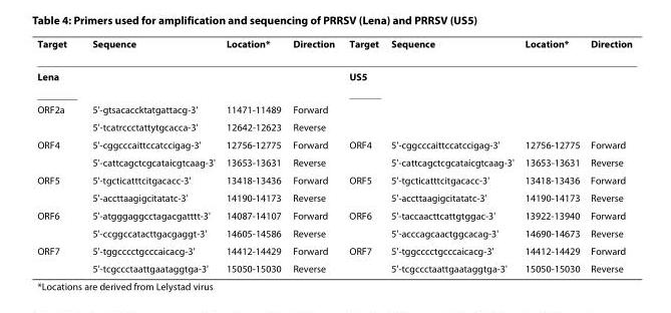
<table><thead><tr><td>Target</td><td>Sequence</td><td>Location*</td><td>Direction</td><td>Target</td><td>Sequence</td><td>Location*</td><td>Direction</td></tr></thead><tbody><tr><td>Lena</td><td></td><td></td><td></td><td>US5</td><td></td><td></td><td></td></tr><tr><td rowspan="2">ORF2a</td><td>5&#x27;-gtsacaccktatgattacg-3&#x27;</td><td>11471-11489</td><td>Forward</td><td></td><td></td><td></td><td></td></tr><tr><td>5&#x27;-tcatrccctattytgcacca-3&#x27;</td><td>12642-12623</td><td>Reverse</td><td></td><td></td><td></td><td></td></tr><tr><td rowspan="2">ORF4</td><td>5&#x27;-cggcccaittccatccigag-3&#x27;</td><td>12756-12775</td><td>Forward</td><td>ORF4</td><td>5&#x27;-cggcccaittccatccigag-3&#x27;</td><td>12756-12775</td><td>Forward</td></tr><tr><td>5&#x27;-cattcagctcgcataicgtcaag-3&#x27;</td><td>13653-13631</td><td>Reverse</td><td></td><td>5&#x27;-cattcagctcgcataicgtcaag-3&#x27;</td><td>13653-13631</td><td>Reverse</td></tr><tr><td rowspan="2">ORF5</td><td>5&#x27;-tgcticatttcitgacacc-3&#x27;</td><td>13418-13436</td><td>Forward</td><td>ORF5</td><td>5&#x27;-tgcticatttcitgacacc-3&#x27;</td><td>13418-13436</td><td>Forward</td></tr><tr><td>5&#x27;-accttaagigcitatatc-3&#x27;</td><td>14190-14173</td><td>Reverse</td><td></td><td>5&#x27;-accttaagigcitatatc-3&#x27;</td><td>14190-14173</td><td>Reverse</td></tr><tr><td rowspan="2">ORF6</td><td>5&#x27;-atgggaggcctagacgatttt-3&#x27;</td><td>14087-14107</td><td>Forward</td><td>ORF6</td><td>5&#x27;-taccaacttcattgtggac-3&#x27;</td><td>13922-13940</td><td>Forward</td></tr><tr><td>5&#x27;-ccggccatacttgacgaggt-3&#x27;</td><td>14605-14586</td><td>Reverse</td><td></td><td>5&#x27;-acccagcaactggcacag-3&#x27;</td><td>14690-14673</td><td>Reverse</td></tr><tr><td rowspan="2">ORF7</td><td>5&#x27;-tggcccctgcccaicacg-3&#x27;</td><td>14412-14429</td><td>Forward</td><td>ORF7</td><td>5&#x27;-tggcccctgcccaicacg-3&#x27;</td><td>14412-14429</td><td>Forward</td></tr><tr><td>5&#x27;-tcgccctaattgaataggtga-3&#x27;</td><td>15050-15030</td><td>Reverse</td><td></td><td>5&#x27;-tcgccctaattgaataggtga-3&#x27;</td><td>15050-15030</td><td>Reverse</td></tr></tbody></table>